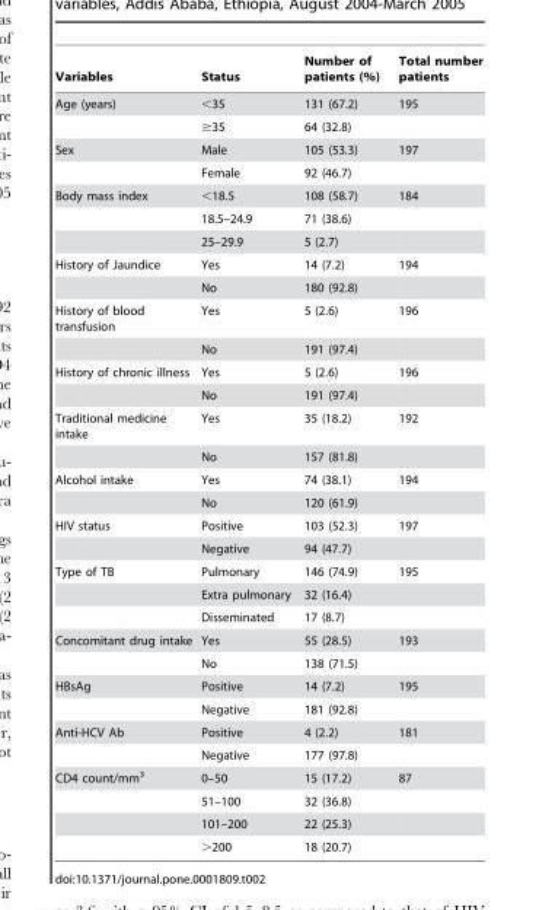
<table><thead><tr><td>Variables</td><td>Status</td><td>Number of patients (%)</td><td>Total number patients</td></tr></thead><tbody><tr><td rowspan="2">Age (years)</td><td>&lt;35</td><td>131 (67.2)</td><td>195</td></tr><tr><td>≥35</td><td>64 (32.8)</td><td></td></tr><tr><td rowspan="2">Sex</td><td>Male</td><td>105 (53.3)</td><td>197</td></tr><tr><td>Female</td><td>92 (46.7)</td><td></td></tr><tr><td rowspan="3">Body mass index</td><td>&lt;18.5</td><td>108 (58.7)</td><td>184</td></tr><tr><td>18.5–24.9</td><td>71 (38.6)</td><td></td></tr><tr><td>25–29.9</td><td>5 (2.7)</td><td></td></tr><tr><td rowspan="2">History of Jaundice</td><td>Yes</td><td>14 (7.2)</td><td>194</td></tr><tr><td>No</td><td>180 (92.8)</td><td></td></tr><tr><td rowspan="2">History of blood transfusion</td><td>Yes</td><td>5 (2.6)</td><td>196</td></tr><tr><td>No</td><td>191 (97.4)</td><td></td></tr><tr><td rowspan="2">History of chronic illness</td><td>Yes</td><td>5 (2.6)</td><td>196</td></tr><tr><td>No</td><td>191 (97.4)</td><td></td></tr><tr><td rowspan="2">Traditional medicine intake</td><td>Yes</td><td>35 (18.2)</td><td>192</td></tr><tr><td>No</td><td>157 (81.8)</td><td></td></tr><tr><td rowspan="2">Alcohol intake</td><td>Yes</td><td>74 (38.1)</td><td>194</td></tr><tr><td>No</td><td>120 (61.9)</td><td></td></tr><tr><td rowspan="2">HIV status</td><td>Positive</td><td>103 (52.3)</td><td>197</td></tr><tr><td>Negative</td><td>94 (47.7)</td><td></td></tr><tr><td rowspan="3">Type of TB</td><td>Pulmonary</td><td>146 (74.9)</td><td>195</td></tr><tr><td>Extra pulmonary</td><td>32 (16.4)</td><td></td></tr><tr><td>Disseminated</td><td>17 (8.7)</td><td></td></tr><tr><td rowspan="2">Concomitant drug intake</td><td>Yes</td><td>55 (28.5)</td><td>193</td></tr><tr><td>No</td><td>138 (71.5)</td><td></td></tr><tr><td rowspan="2">HBsAg</td><td>Positive</td><td>14 (7.2)</td><td>195</td></tr><tr><td>Negative</td><td>181 (92.8)</td><td></td></tr><tr><td rowspan="2">Anti-HCV Ab</td><td>Positive</td><td>4 (2.2)</td><td>181</td></tr><tr><td>Negative</td><td>177 (97.8)</td><td></td></tr><tr><td rowspan="4">CD4 count/mm<sup>3</sup></td><td>0–50</td><td>15 (17.2)</td><td>87</td></tr><tr><td>51–100</td><td>32 (36.8)</td><td></td></tr><tr><td>101–200</td><td>22 (25.3)</td><td></td></tr><tr><td>&gt;200</td><td>18 (20.7)</td><td></td></tr></tbody></table>